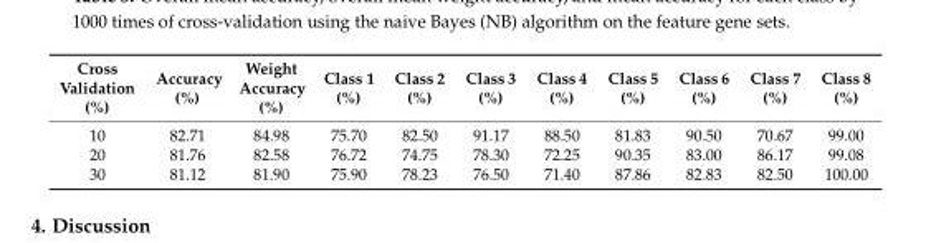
<table><thead><tr><td>Cross Validation (%)</td><td>Accuracy (%)</td><td>Weight Accuracy (%)</td><td>Class 1 (%)</td><td>Class 2 (%)</td><td>Class 3 (%)</td><td>Class 4 (%)</td><td>Class 5 (%)</td><td>Class 6 (%)</td><td>Class 7 (%)</td><td>Class 8 (%)</td></tr></thead><tbody><tr><td>10</td><td>82.71</td><td>84.98</td><td>75.70</td><td>82.50</td><td>91.17</td><td>88.50</td><td>81.83</td><td>90.50</td><td>70.67</td><td>99.00</td></tr><tr><td>20</td><td>81.76</td><td>82.58</td><td>76.72</td><td>74.75</td><td>78.30</td><td>72.25</td><td>90.35</td><td>83.00</td><td>86.17</td><td>99.08</td></tr><tr><td>30</td><td>81.12</td><td>81.90</td><td>75.90</td><td>78.23</td><td>76.50</td><td>71.40</td><td>87.86</td><td>82.83</td><td>82.50</td><td>100.00</td></tr></tbody></table>